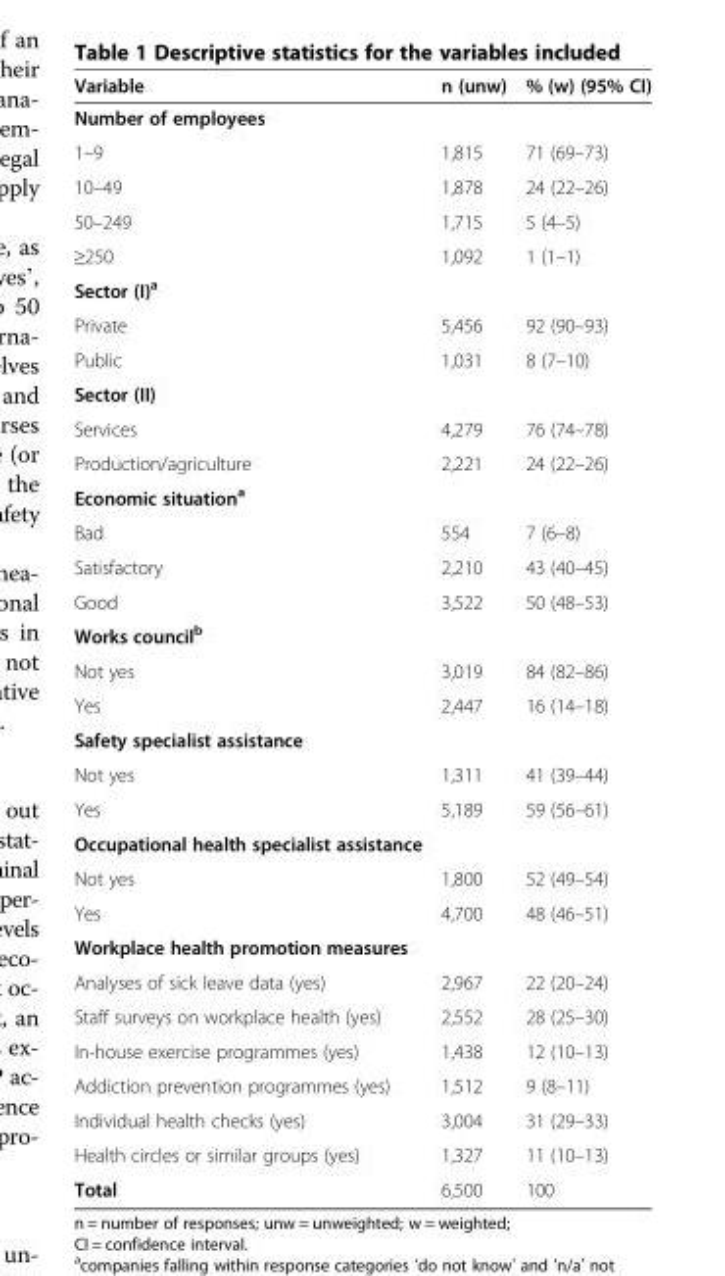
<table><thead><tr><td>Variable</td><td>n (unw)</td><td>% (w) (95% CI)</td></tr></thead><tbody><tr><td colspan="3">Number of employees</td></tr><tr><td>1–9</td><td>1,815</td><td>71 (69–73)</td></tr><tr><td>10–49</td><td>1,878</td><td>24 (22–26)</td></tr><tr><td>50–249</td><td>1,715</td><td>5 (4–5)</td></tr><tr><td>≥250</td><td>1,092</td><td>1 (1–1)</td></tr><tr><td colspan="3">Sector (I)<sup>a</sup></td></tr><tr><td>Private</td><td>5,456</td><td>92 (90–93)</td></tr><tr><td>Public</td><td>1,031</td><td>8 (7–10)</td></tr><tr><td colspan="3">Sector (II)</td></tr><tr><td>Services</td><td>4,279</td><td>76 (74–78)</td></tr><tr><td>Production/agriculture</td><td>2,221</td><td>24 (22–26)</td></tr><tr><td colspan="3">Economic situation<sup>a</sup></td></tr><tr><td>Bad</td><td>554</td><td>7 (6–8)</td></tr><tr><td>Satisfactory</td><td>2,210</td><td>43 (40–45)</td></tr><tr><td>Good</td><td>3,522</td><td>50 (48–53)</td></tr><tr><td colspan="3">Works council<sup>b</sup></td></tr><tr><td>Not yes</td><td>3,019</td><td>84 (82–86)</td></tr><tr><td>Yes</td><td>2,447</td><td>16 (14–18)</td></tr><tr><td colspan="3">Safety specialist assistance</td></tr><tr><td>Not yes</td><td>1,311</td><td>41 (39–44)</td></tr><tr><td>Yes</td><td>5,189</td><td>59 (56–61)</td></tr><tr><td colspan="3">Occupational health specialist assistance</td></tr><tr><td>Not yes</td><td>1,800</td><td>52 (49–54)</td></tr><tr><td>Yes</td><td>4,700</td><td>48 (46–51)</td></tr><tr><td colspan="3">Workplace health promotion measures</td></tr><tr><td>Analyses of sick leave data (yes)</td><td>2,967</td><td>22 (20–24)</td></tr><tr><td>Staff surveys on workplace health (yes)</td><td>2,552</td><td>28 (25–30)</td></tr><tr><td>In-house exercise programmes (yes)</td><td>1,438</td><td>12 (10–13)</td></tr><tr><td>Addiction prevention programmes (yes)</td><td>1,512</td><td>9 (8–11)</td></tr><tr><td>Individual health checks (yes)</td><td>3,004</td><td>31 (29–33)</td></tr><tr><td>Health circles or similar groups (yes)</td><td>1,327</td><td>11 (10–13)</td></tr><tr><td>Total</td><td>6,500</td><td>100</td></tr></tbody></table>